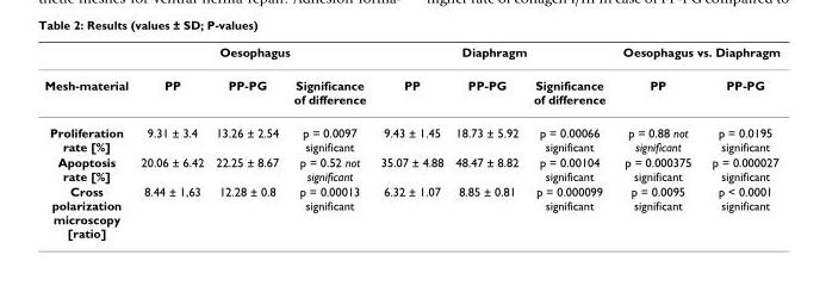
<table><thead><tr><td rowspan="2">Mesh-material</td><td colspan="3">Oesophagus</td><td colspan="3">Diaphragm</td><td colspan="2">Oesophagus vs. Diaphragm</td></tr><tr><td>PP</td><td>PP-PG</td><td>Significance of difference</td><td>PP</td><td>PP-PG</td><td>Significance of difference</td><td>PP</td><td>PP-PG</td></tr></thead><tbody><tr><td>Proliferation rate [%]</td><td>9.31 ± 3.4</td><td>13.26 ± 2.54</td><td>p = 0.0097 significant</td><td>9.43 ± 1.45</td><td>18.73 ± 5.92</td><td>p = 0.00066 significant</td><td>p = 0.88 not significant</td><td>p = 0.0195 significant</td></tr><tr><td>Apoptosis rate [%]</td><td>20.06 ± 6.42</td><td>22.25 ± 8.67</td><td>p = 0.52 not significant</td><td>35.07 ± 4.88</td><td>48.47 ± 8.82</td><td>p = 0.00104 significant</td><td>p = 0.000375 significant</td><td>p = 0.000027 significant</td></tr><tr><td>Cross polarization microscopy [ratio]</td><td>8.44 ± 1,63</td><td>12.28 ± 0.8</td><td>p = 0.00013 significant</td><td>6.32 ± 1.07</td><td>8.85 ± 0.81</td><td>p = 0.000099 significant</td><td>p = 0.0095 significant</td><td>p &lt; 0.0001 significant</td></tr></tbody></table>